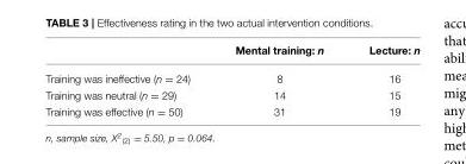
<table><thead><tr><td></td><td>Mental training: n</td><td>Lecture: n</td></tr></thead><tbody><tr><td>Training was ineffective (n = 24)</td><td>8</td><td>16</td></tr><tr><td>Training was neutral (n = 29)</td><td>14</td><td>15</td></tr><tr><td>Training was effective (n = 50)</td><td>31</td><td>19</td></tr></tbody></table>